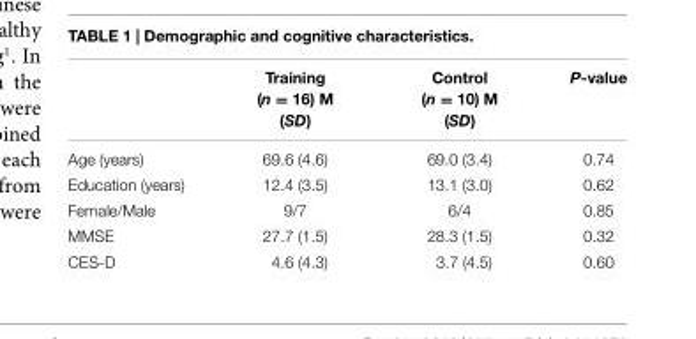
<table><thead><tr><td></td><td>Training (n = 16) M (SD)</td><td>Control (n = 10) M (SD)</td><td>P-value</td></tr></thead><tbody><tr><td>Age (years)</td><td>69.6 (4.6)</td><td>69.0 (3.4)</td><td>0.74</td></tr><tr><td>Education (years)</td><td>12.4 (3.5)</td><td>13.1 (3.0)</td><td>0.62</td></tr><tr><td>Female/Male</td><td>9/7</td><td>6/4</td><td>0.85</td></tr><tr><td>MMSE</td><td>27.7 (1.5)</td><td>28.3 (1.5)</td><td>0.32</td></tr><tr><td>CES-D</td><td>4.6 (4.3)</td><td>3.7 (4.5)</td><td>0.60</td></tr></tbody></table>